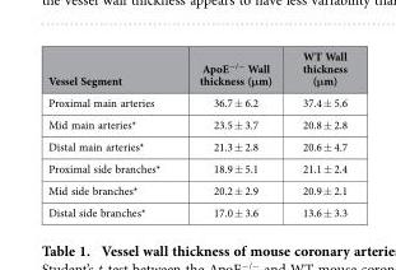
<table><thead><tr><td>Vessel Segment</td><td>ApoE<sup>−/−</sup> Wall thickness (μm)</td><td>WT Wall thickness (μm)</td></tr></thead><tbody><tr><td>Proximal main arteries</td><td>36.7 ± 6.2</td><td>37.4 ± 5.6</td></tr><tr><td>Mid main arteries*</td><td>23.5 ± 3.7</td><td>20.8 ± 2.8</td></tr><tr><td>Distal main arteries*</td><td>21.3 ± 2.8</td><td>20.6 ± 4.7</td></tr><tr><td>Proximal side branches*</td><td>18.9 ± 5.1</td><td>21.1 ± 2.4</td></tr><tr><td>Mid side branches*</td><td>20.2 ± 2.9</td><td>20.9 ± 2.1</td></tr><tr><td>Distal side branches*</td><td>17.0 ± 3.6</td><td>13.6 ± 3.3</td></tr></tbody></table>